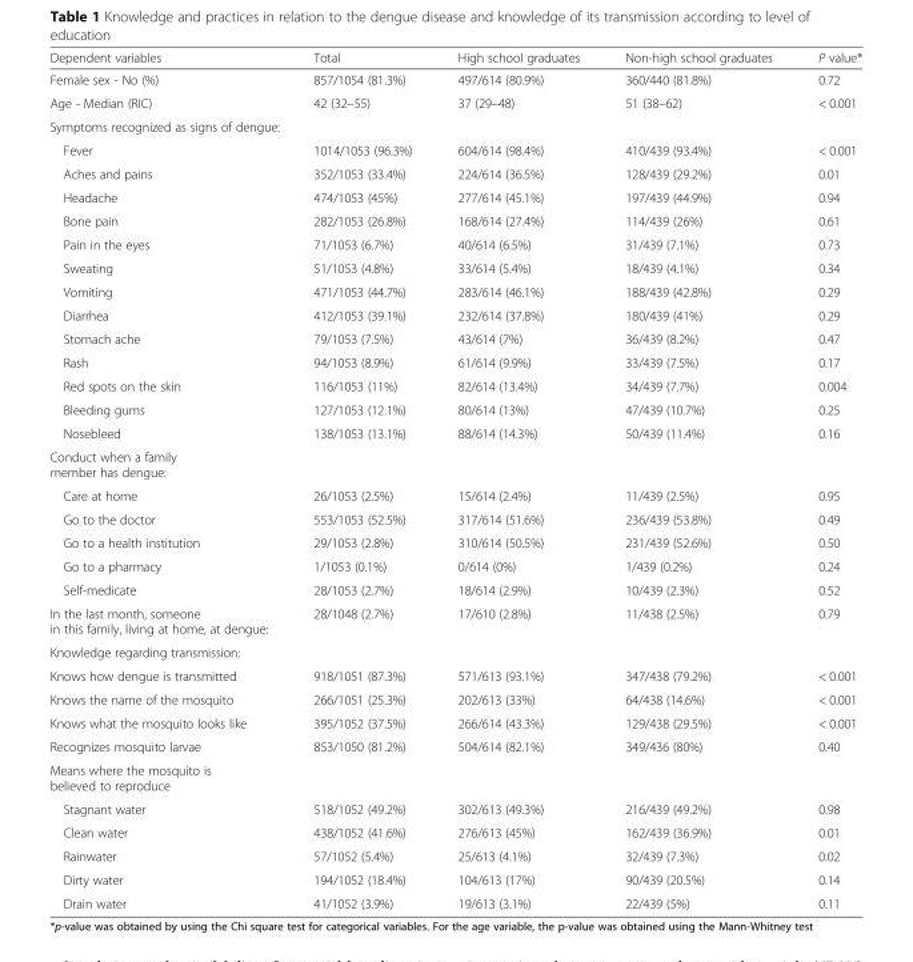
<table><thead><tr><td>Dependent variables</td><td>Total</td><td>High school graduates</td><td>Non-high school graduates</td><td>P value*</td></tr></thead><tbody><tr><td>Female sex - No (%)</td><td>857/1054 (81.3%)</td><td>497/614 (80.9%)</td><td>360/440 (81.8%)</td><td>0.72</td></tr><tr><td>Age - Median (RIC)</td><td>42 (32–55)</td><td>37 (29–48)</td><td>51 (38–62)</td><td>&lt; 0.001</td></tr><tr><td colspan="5">Symptoms recognized as signs of dengue:</td></tr><tr><td>Fever</td><td>1014/1053 (96.3%)</td><td>604/614 (98.4%)</td><td>410/439 (93.4%)</td><td>&lt; 0.001</td></tr><tr><td>Aches and pains</td><td>352/1053 (33.4%)</td><td>224/614 (36.5%)</td><td>128/439 (29.2%)</td><td>0.01</td></tr><tr><td>Headache</td><td>474/1053 (45%)</td><td>277/614 (45.1%)</td><td>197/439 (44.9%)</td><td>0.94</td></tr><tr><td>Bone pain</td><td>282/1053 (26.8%)</td><td>168/614 (27.4%)</td><td>114/439 (26%)</td><td>0.61</td></tr><tr><td>Pain in the eyes</td><td>71/1053 (6.7%)</td><td>40/614 (6.5%)</td><td>31/439 (7.1%)</td><td>0.73</td></tr><tr><td>Sweating</td><td>51/1053 (4.8%)</td><td>33/614 (5.4%)</td><td>18/439 (4.1%)</td><td>0.34</td></tr><tr><td>Vomiting</td><td>471/1053 (44.7%)</td><td>283/614 (46.1%)</td><td>188/439 (42.8%)</td><td>0.29</td></tr><tr><td>Diarrhea</td><td>412/1053 (39.1%)</td><td>232/614 (37.8%)</td><td>180/439 (41%)</td><td>0.29</td></tr><tr><td>Stomach ache</td><td>79/1053 (7.5%)</td><td>43/614 (7%)</td><td>36/439 (8.2%)</td><td>0.47</td></tr><tr><td>Rash</td><td>94/1053 (8.9%)</td><td>61/614 (9.9%)</td><td>33/439 (7.5%)</td><td>0.17</td></tr><tr><td>Red spots on the skin</td><td>116/1053 (11%)</td><td>82/614 (13.4%)</td><td>34/439 (7.7%)</td><td>0.004</td></tr><tr><td>Bleeding gums</td><td>127/1053 (12.1%)</td><td>80/614 (13%)</td><td>47/439 (10.7%)</td><td>0.25</td></tr><tr><td>Nosebleed</td><td>138/1053 (13.1%)</td><td>88/614 (14.3%)</td><td>50/439 (11.4%)</td><td>0.16</td></tr><tr><td colspan="5">Conduct when a family member has dengue:</td></tr><tr><td>Care at home</td><td>26/1053 (2.5%)</td><td>15/614 (2.4%)</td><td>11/439 (2.5%)</td><td>0.95</td></tr><tr><td>Go to the doctor</td><td>553/1053 (52.5%)</td><td>317/614 (51.6%)</td><td>236/439 (53.8%)</td><td>0.49</td></tr><tr><td>Go to a health institution</td><td>29/1053 (2.8%)</td><td>310/614 (50.5%)</td><td>231/439 (52.6%)</td><td>0.50</td></tr><tr><td>Go to a pharmacy</td><td>1/1053 (0.1%)</td><td>0/614 (0%)</td><td>1/439 (0.2%)</td><td>0.24</td></tr><tr><td>Self-medicate</td><td>28/1053 (2.7%)</td><td>18/614 (2.9%)</td><td>10/439 (2.3%)</td><td>0.52</td></tr><tr><td>In the last month, someone in this family, living at home, at dengue:</td><td>28/1048 (2.7%)</td><td>17/610 (2.8%)</td><td>11/438 (2.5%)</td><td>0.79</td></tr><tr><td colspan="5">Knowledge regarding transmission:</td></tr><tr><td>Knows how dengue is transmitted</td><td>918/1051 (87.3%)</td><td>571/613 (93.1%)</td><td>347/438 (79.2%)</td><td>&lt; 0.001</td></tr><tr><td>Knows the name of the mosquito</td><td>266/1051 (25.3%)</td><td>202/613 (33%)</td><td>64/438 (14.6%)</td><td>&lt; 0.001</td></tr><tr><td>Knows what the mosquito looks like</td><td>395/1052 (37.5%)</td><td>266/614 (43.3%)</td><td>129/438 (29.5%)</td><td>&lt; 0.001</td></tr><tr><td>Recognizes mosquito larvae</td><td>853/1050 (81.2%)</td><td>504/614 (82.1%)</td><td>349/436 (80%)</td><td>0.40</td></tr><tr><td colspan="5">Means where the mosquito is believed to reproduce</td></tr><tr><td>Stagnant water</td><td>518/1052 (49.2%)</td><td>302/613 (49.3%)</td><td>216/439 (49.2%)</td><td>0.98</td></tr><tr><td>Clean water</td><td>438/1052 (41.6%)</td><td>276/613 (45%)</td><td>162/439 (36.9%)</td><td>0.01</td></tr><tr><td>Rainwater</td><td>57/1052 (5.4%)</td><td>25/613 (4.1%)</td><td>32/439 (7.3%)</td><td>0.02</td></tr><tr><td>Dirty water</td><td>194/1052 (18.4%)</td><td>104/613 (17%)</td><td>90/439 (20.5%)</td><td>0.14</td></tr><tr><td>Drain water</td><td>41/1052 (3.9%)</td><td>19/613 (3.1%)</td><td>22/439 (5%)</td><td>0.11</td></tr></tbody></table>